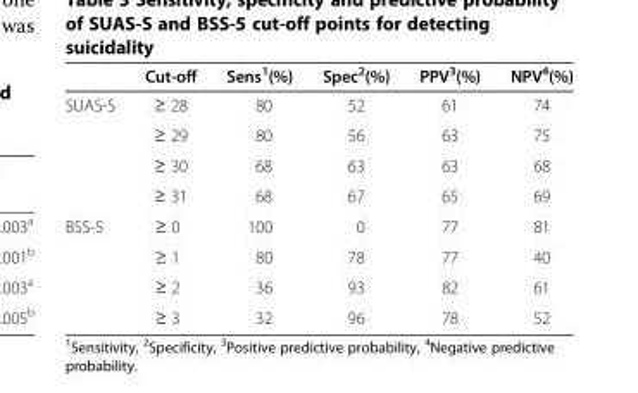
<table><thead><tr><td></td><td>Cut-off</td><td>Sens<sup>1</sup>(%)</td><td>Spec<sup>2</sup>(%)</td><td>PPV<sup>3</sup>(%)</td><td>NPV<sup>4</sup>(%)</td></tr></thead><tbody><tr><td rowspan="4">SUAS-S</td><td>≥ 28</td><td>80</td><td>52</td><td>61</td><td>74</td></tr><tr><td>≥ 29</td><td>80</td><td>56</td><td>63</td><td>75</td></tr><tr><td>≥ 30</td><td>68</td><td>63</td><td>63</td><td>68</td></tr><tr><td>≥ 31</td><td>68</td><td>67</td><td>65</td><td>69</td></tr><tr><td rowspan="4">BSS-5</td><td>≥ 0</td><td>100</td><td>0</td><td>77</td><td>81</td></tr><tr><td>≥ 1</td><td>80</td><td>78</td><td>77</td><td>40</td></tr><tr><td>≥ 2</td><td>36</td><td>93</td><td>82</td><td>61</td></tr><tr><td>≥ 3</td><td>32</td><td>96</td><td>78</td><td>52</td></tr></tbody></table>